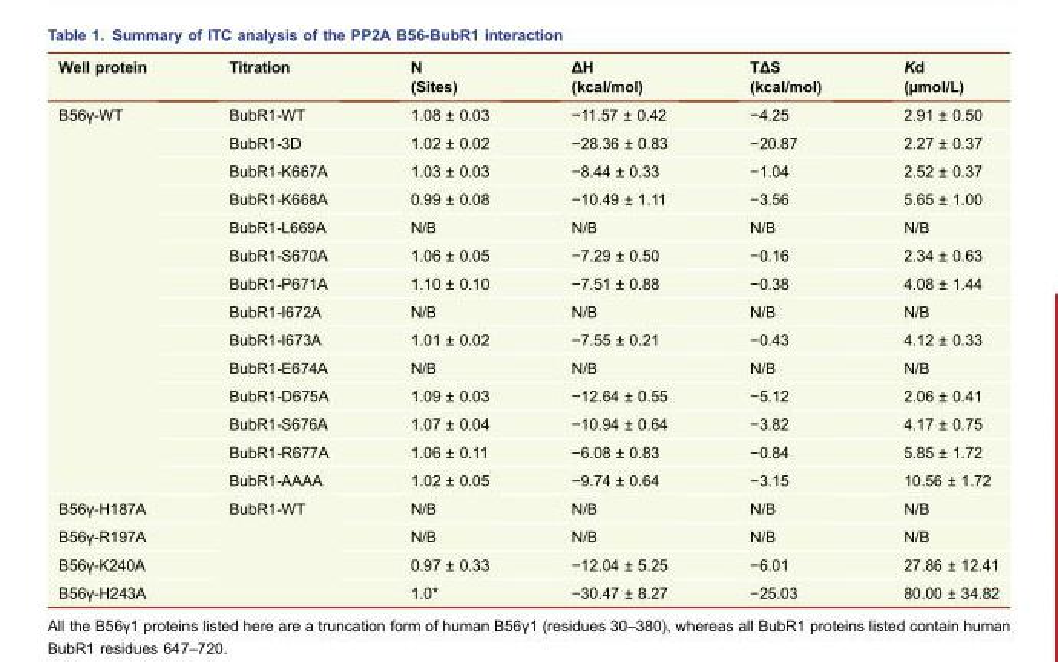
<table><thead><tr><td>Well protein</td><td>Titration</td><td>N (Sites)</td><td>ΔH (kcal/mol)</td><td>TΔS (kcal/mol)</td><td>Kd (μmol/L)</td></tr></thead><tbody><tr><td rowspan="14">B56γ-WT</td><td>BubR1-WT</td><td>1.08 ± 0.03</td><td>−11.57 ± 0.42</td><td>−4.25</td><td>2.91 ± 0.50</td></tr><tr><td>BubR1-3D</td><td>1.02 ± 0.02</td><td>−28.36 ± 0.83</td><td>−20.87</td><td>2.27 ± 0.37</td></tr><tr><td>BubR1-K667A</td><td>1.03 ± 0.03</td><td>−8.44 ± 0.33</td><td>−1.04</td><td>2.52 ± 0.37</td></tr><tr><td>BubR1-K668A</td><td>0.99 ± 0.08</td><td>−10.49 ± 1.11</td><td>−3.56</td><td>5.65 ± 1.00</td></tr><tr><td>BubR1-L669A</td><td>N/B</td><td>N/B</td><td>N/B</td><td>N/B</td></tr><tr><td>BubR1-S670A</td><td>1.06 ± 0.05</td><td>−7.29 ± 0.50</td><td>−0.16</td><td>2.34 ± 0.63</td></tr><tr><td>BubR1-P671A</td><td>1.10 ± 0.10</td><td>−7.51 ± 0.88</td><td>−0.38</td><td>4.08 ± 1.44</td></tr><tr><td>BubR1-I672A</td><td>N/B</td><td>N/B</td><td>N/B</td><td>N/B</td></tr><tr><td>BubR1-I673A</td><td>1.01 ± 0.02</td><td>−7.55 ± 0.21</td><td>−0.43</td><td>4.12 ± 0.33</td></tr><tr><td>BubR1-E674A</td><td>N/B</td><td>N/B</td><td>N/B</td><td>N/B</td></tr><tr><td>BubR1-D675A</td><td>1.09 ± 0.03</td><td>−12.64 ± 0.55</td><td>−5.12</td><td>2.06 ± 0.41</td></tr><tr><td>BubR1-S676A</td><td>1.07 ± 0.04</td><td>−10.94 ± 0.64</td><td>−3.82</td><td>4.17 ± 0.75</td></tr><tr><td>BubR1-R677A</td><td>1.06 ± 0.11</td><td>−6.08 ± 0.83</td><td>−0.84</td><td>5.85 ± 1.72</td></tr><tr><td>BubR1-AAAA</td><td>1.02 ± 0.05</td><td>−9.74 ± 0.64</td><td>−3.15</td><td>10.56 ± 1.72</td></tr><tr><td>B56γ-H187A</td><td rowspan="4">BubR1-WT</td><td>N/B</td><td>N/B</td><td>N/B</td><td>N/B</td></tr><tr><td>B56γ-R197A</td><td>N/B</td><td>N/B</td><td>N/B</td><td>N/B</td></tr><tr><td>B56γ-K240A</td><td>0.97 ± 0.33</td><td>−12.04 ± 5.25</td><td>−6.01</td><td>27.86 ± 12.41</td></tr><tr><td>B56γ-H243A</td><td>1.0*</td><td>−30.47 ± 8.27</td><td>−25.03</td><td>80.00 ± 34.82</td></tr></tbody></table>